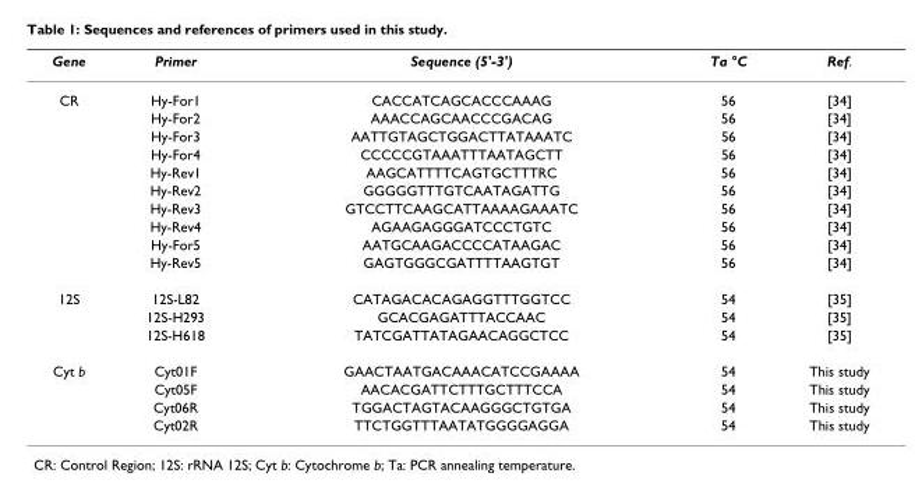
<table><thead><tr><td>Gene</td><td>Primer</td><td>Sequence (5&#x27;-3&#x27;)</td><td>Ta °C</td><td>Ref.</td></tr></thead><tbody><tr><td rowspan="10">CR</td><td>Hy-For1</td><td>CACCATCAGCACCCAAAG</td><td>56</td><td>[34]</td></tr><tr><td>Hy-For2</td><td>AAACCAGCAACCCGACAG</td><td>56</td><td>[34]</td></tr><tr><td>Hy-For3</td><td>AATTGTAGCTGGACTTATAAATC</td><td>56</td><td>[34]</td></tr><tr><td>Hy-For4</td><td>CCCCCGTAAATTTAATAGCTT</td><td>56</td><td>[34]</td></tr><tr><td>Hy-Rev1</td><td>AAGCATTTTCAGTGCTTTRC</td><td>56</td><td>[34]</td></tr><tr><td>Hy-Rev2</td><td>GGGGGTTTGTCAATAGATTG</td><td>56</td><td>[34]</td></tr><tr><td>Hy-Rev3</td><td>GTCCTTCAAGCATTAAAAGAAATC</td><td>56</td><td>[34]</td></tr><tr><td>Hy-Rev4</td><td>AGAAGAGGGATCCCTGTC</td><td>56</td><td>[34]</td></tr><tr><td>Hy-For5</td><td>AATGCAAGACCCCATAAGAC</td><td>56</td><td>[34]</td></tr><tr><td>Hy-Rev5</td><td>GAGTGGGCGATTTTAAGTGT</td><td>56</td><td>[34]</td></tr><tr><td rowspan="3">12S</td><td>12S-L82</td><td>CATAGACACAGAGGTTTGGTCC</td><td>54</td><td>[35]</td></tr><tr><td>12S-H293</td><td>GCACGAGATTTACCAAC</td><td>54</td><td>[35]</td></tr><tr><td>12S-H618</td><td>TATCGATTATAGAACAGGCTCC</td><td>54</td><td>[35]</td></tr><tr><td rowspan="4">Cyt b</td><td>Cyt01F</td><td>GAACTAATGACAAACATCCGAAAA</td><td>54</td><td>This study</td></tr><tr><td>Cyt05F</td><td>AACACGATTCTTTGCTTTCCA</td><td>54</td><td>This study</td></tr><tr><td>Cyt06R</td><td>TGGACTAGTACAAGGGCTGTGA</td><td>54</td><td>This study</td></tr><tr><td>Cyt02R</td><td>TTCTGGTTTAATATGGGGAGGA</td><td>54</td><td>This study</td></tr></tbody></table>